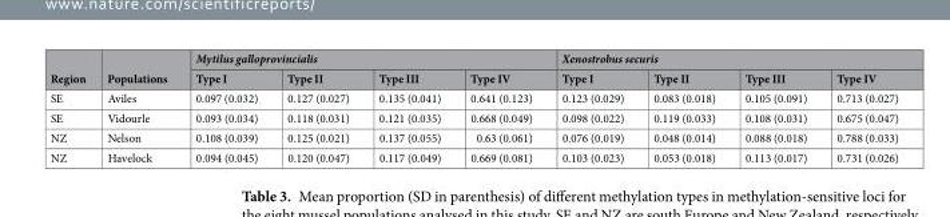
<table><thead><tr><td rowspan="2">Region</td><td rowspan="2">Populations</td><td colspan="4">Mytilus galloprovincialis</td><td colspan="4">Xenostrobus securis</td></tr><tr><td>Type I</td><td>Type II</td><td>Type III</td><td>Type IV</td><td>Type I</td><td>Type II</td><td>Type III</td><td>Type IV</td></tr></thead><tbody><tr><td>SE</td><td>Aviles</td><td>0.097 (0.032)</td><td>0.127 (0.027)</td><td>0.135 (0.041)</td><td>0.641 (0.123)</td><td>0.123 (0.029)</td><td>0.083 (0.018)</td><td>0.105 (0.091)</td><td>0.713 (0.027)</td></tr><tr><td>SE</td><td>Vidourle</td><td>0.093 (0.034)</td><td>0.118 (0.031)</td><td>0.121 (0.035)</td><td>0.668 (0.049)</td><td>0.098 (0.022)</td><td>0.119 (0.033)</td><td>0.108 (0.031)</td><td>0.675 (0.047)</td></tr><tr><td>NZ</td><td>Nelson</td><td>0.108 (0.039)</td><td>0.125 (0.021)</td><td>0.137 (0.055)</td><td>0.63 (0.061)</td><td>0.076 (0.019)</td><td>0.048 (0.014)</td><td>0.088 (0.018)</td><td>0.788 (0.033)</td></tr><tr><td>NZ</td><td>Havelock</td><td>0.094 (0.045)</td><td>0.120 (0.047)</td><td>0.117 (0.049)</td><td>0.669 (0.081)</td><td>0.103 (0.023)</td><td>0.053 (0.018)</td><td>0.113 (0.017)</td><td>0.731 (0.026)</td></tr></tbody></table>